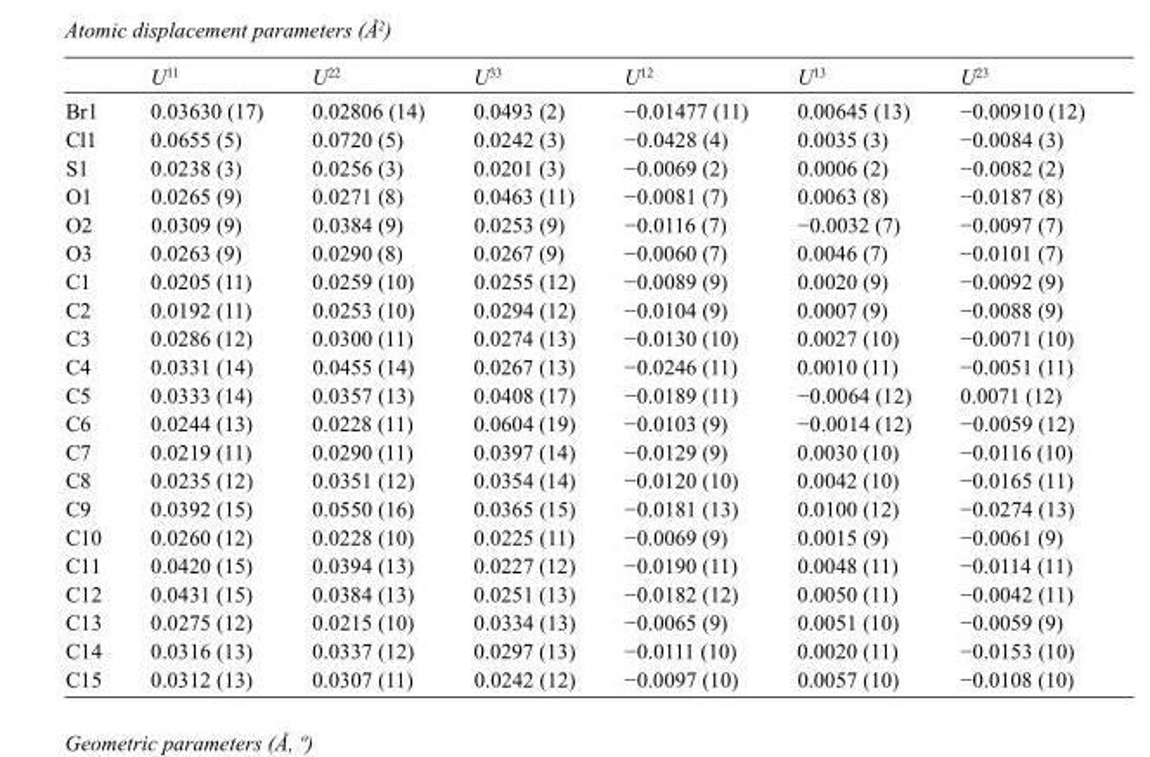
<table><thead><tr><td></td><td>U<sup>11</sup></td><td>U<sup>22</sup></td><td>U<sup>33</sup></td><td>U<sup>12</sup></td><td>U<sup>13</sup></td><td>U<sup>23</sup></td></tr></thead><tbody><tr><td>Br1</td><td>0.03630 (17)</td><td>0.02806 (14)</td><td>0.0493 (2)</td><td>−0.01477 (11)</td><td>0.00645 (13)</td><td>−0.00910 (12)</td></tr><tr><td>Cl1</td><td>0.0655 (5)</td><td>0.0720 (5)</td><td>0.0242 (3)</td><td>−0.0428 (4)</td><td>0.0035 (3)</td><td>−0.0084 (3)</td></tr><tr><td>S1</td><td>0.0238 (3)</td><td>0.0256 (3)</td><td>0.0201 (3)</td><td>−0.0069 (2)</td><td>0.0006 (2)</td><td>−0.0082 (2)</td></tr><tr><td>O1</td><td>0.0265 (9)</td><td>0.0271 (8)</td><td>0.0463 (11)</td><td>−0.0081 (7)</td><td>0.0063 (8)</td><td>−0.0187 (8)</td></tr><tr><td>O2</td><td>0.0309 (9)</td><td>0.0384 (9)</td><td>0.0253 (9)</td><td>−0.0116 (7)</td><td>−0.0032 (7)</td><td>−0.0097 (7)</td></tr><tr><td>O3</td><td>0.0263 (9)</td><td>0.0290 (8)</td><td>0.0267 (9)</td><td>−0.0060 (7)</td><td>0.0046 (7)</td><td>−0.0101 (7)</td></tr><tr><td>C1</td><td>0.0205 (11)</td><td>0.0259 (10)</td><td>0.0255 (12)</td><td>−0.0089 (9)</td><td>0.0020 (9)</td><td>−0.0092 (9)</td></tr><tr><td>C2</td><td>0.0192 (11)</td><td>0.0253 (10)</td><td>0.0294 (12)</td><td>−0.0104 (9)</td><td>0.0007 (9)</td><td>−0.0088 (9)</td></tr><tr><td>C3</td><td>0.0286 (12)</td><td>0.0300 (11)</td><td>0.0274 (13)</td><td>−0.0130 (10)</td><td>0.0027 (10)</td><td>−0.0071 (10)</td></tr><tr><td>C4</td><td>0.0331 (14)</td><td>0.0455 (14)</td><td>0.0267 (13)</td><td>−0.0246 (11)</td><td>0.0010 (11)</td><td>−0.0051 (11)</td></tr><tr><td>C5</td><td>0.0333 (14)</td><td>0.0357 (13)</td><td>0.0408 (17)</td><td>−0.0189 (11)</td><td>−0.0064 (12)</td><td>0.0071 (12)</td></tr><tr><td>C6</td><td>0.0244 (13)</td><td>0.0228 (11)</td><td>0.0604 (19)</td><td>−0.0103 (9)</td><td>−0.0014 (12)</td><td>−0.0059 (12)</td></tr><tr><td>C7</td><td>0.0219 (11)</td><td>0.0290 (11)</td><td>0.0397 (14)</td><td>−0.0129 (9)</td><td>0.0030 (10)</td><td>−0.0116 (10)</td></tr><tr><td>C8</td><td>0.0235 (12)</td><td>0.0351 (12)</td><td>0.0354 (14)</td><td>−0.0120 (10)</td><td>0.0042 (10)</td><td>−0.0165 (11)</td></tr><tr><td>C9</td><td>0.0392 (15)</td><td>0.0550 (16)</td><td>0.0365 (15)</td><td>−0.0181 (13)</td><td>0.0100 (12)</td><td>−0.0274 (13)</td></tr><tr><td>C10</td><td>0.0260 (12)</td><td>0.0228 (10)</td><td>0.0225 (11)</td><td>−0.0069 (9)</td><td>0.0015 (9)</td><td>−0.0061 (9)</td></tr><tr><td>C11</td><td>0.0420 (15)</td><td>0.0394 (13)</td><td>0.0227 (12)</td><td>−0.0190 (11)</td><td>0.0048 (11)</td><td>−0.0114 (11)</td></tr><tr><td>C12</td><td>0.0431 (15)</td><td>0.0384 (13)</td><td>0.0251 (13)</td><td>−0.0182 (12)</td><td>0.0050 (11)</td><td>−0.0042 (11)</td></tr><tr><td>C13</td><td>0.0275 (12)</td><td>0.0215 (10)</td><td>0.0334 (13)</td><td>−0.0065 (9)</td><td>0.0051 (10)</td><td>−0.0059 (9)</td></tr><tr><td>C14</td><td>0.0316 (13)</td><td>0.0337 (12)</td><td>0.0297 (13)</td><td>−0.0111 (10)</td><td>0.0020 (11)</td><td>−0.0153 (10)</td></tr><tr><td>C15</td><td>0.0312 (13)</td><td>0.0307 (11)</td><td>0.0242 (12)</td><td>−0.0097 (10)</td><td>0.0057 (10)</td><td>−0.0108 (10)</td></tr></tbody></table>